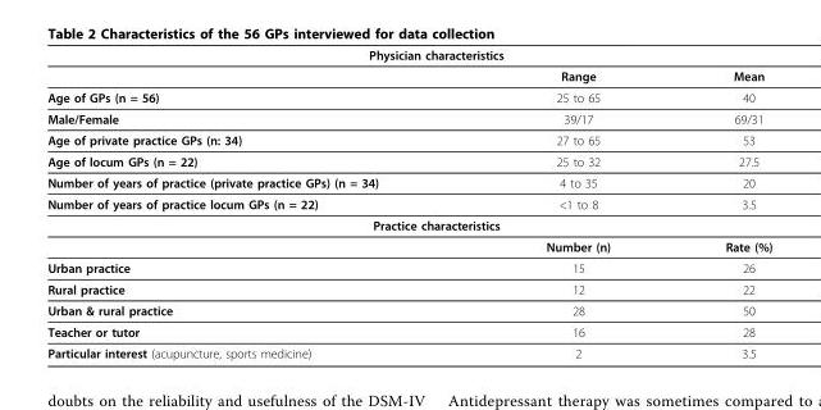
<table><thead><tr><td colspan="3">Physician characteristics</td></tr><tr><td></td><td>Range</td><td>Mean</td></tr></thead><tbody><tr><td>Age of GPs (n = 56)</td><td>25 to 65</td><td>40</td></tr><tr><td>Male/Female</td><td>39/17</td><td>69/31</td></tr><tr><td>Age of private practice GPs (n: 34)</td><td>27 to 65</td><td>53</td></tr><tr><td>Age of locum GPs (n = 22)</td><td>25 to 32</td><td>27.5</td></tr><tr><td>Number of years of practice (private practice GPs) (n = 34)</td><td>4 to 35</td><td>20</td></tr><tr><td>Number of years of practice locum GPs (n = 22)</td><td>&lt;1 to 8</td><td>3.5</td></tr><tr><td colspan="3">Practice characteristics</td></tr><tr><td></td><td>Number (n)</td><td>Rate (%)</td></tr><tr><td>Urban practice</td><td>15</td><td>26</td></tr><tr><td>Rural practice</td><td>12</td><td>22</td></tr><tr><td>Urban &amp; rural practice</td><td>28</td><td>50</td></tr><tr><td>Teacher or tutor</td><td>16</td><td>28</td></tr><tr><td>Particular interest (acupuncture, sports medicine)</td><td>2</td><td>3.5</td></tr></tbody></table>